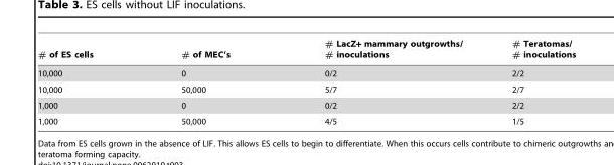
<table><thead><tr><td># of ES cells</td><td># of MEC’s</td><td># LacZ+ mammary outgrowths/ # inoculations</td><td># Teratomas/ # inoculations</td></tr></thead><tbody><tr><td>10,000</td><td>0</td><td>0/2</td><td>2/2</td></tr><tr><td>10,000</td><td>50,000</td><td>5/7</td><td>2/7</td></tr><tr><td>1,000</td><td>0</td><td>0/2</td><td>2/2</td></tr><tr><td>1,000</td><td>50,000</td><td>4/5</td><td>1/5</td></tr></tbody></table>